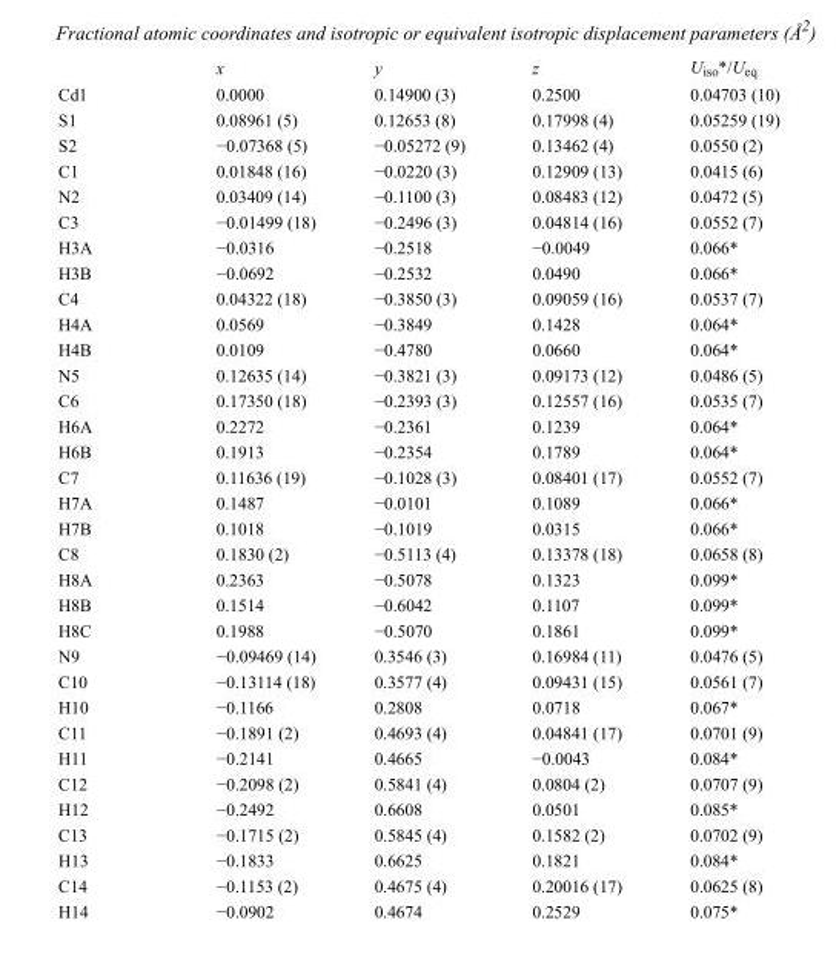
<table><thead><tr><td></td><td>x</td><td>y</td><td>z</td><td>U<sub>iso</sub>*/U<sub>eq</sub></td></tr></thead><tbody><tr><td>Cd1</td><td>0.0000</td><td>0.14900 (3)</td><td>0.2500</td><td>0.04703 (10)</td></tr><tr><td>S1</td><td>0.08961 (5)</td><td>0.12653 (8)</td><td>0.17998 (4)</td><td>0.05259 (19)</td></tr><tr><td>S2</td><td>−0.07368 (5)</td><td>−0.05272 (9)</td><td>0.13462 (4)</td><td>0.0550 (2)</td></tr><tr><td>C1</td><td>0.01848 (16)</td><td>−0.0220 (3)</td><td>0.12909 (13)</td><td>0.0415 (6)</td></tr><tr><td>N2</td><td>0.03409 (14)</td><td>−0.1100 (3)</td><td>0.08483 (12)</td><td>0.0472 (5)</td></tr><tr><td>C3</td><td>−0.01499 (18)</td><td>−0.2496 (3)</td><td>0.04814 (16)</td><td>0.0552 (7)</td></tr><tr><td>H3A</td><td>−0.0316</td><td>−0.2518</td><td>−0.0049</td><td>0.066*</td></tr><tr><td>H3B</td><td>−0.0692</td><td>−0.2532</td><td>0.0490</td><td>0.066*</td></tr><tr><td>C4</td><td>0.04322 (18)</td><td>−0.3850 (3)</td><td>0.09059 (16)</td><td>0.0537 (7)</td></tr><tr><td>H4A</td><td>0.0569</td><td>−0.3849</td><td>0.1428</td><td>0.064*</td></tr><tr><td>H4B</td><td>0.0109</td><td>−0.4780</td><td>0.0660</td><td>0.064*</td></tr><tr><td>N5</td><td>0.12635 (14)</td><td>−0.3821 (3)</td><td>0.09173 (12)</td><td>0.0486 (5)</td></tr><tr><td>C6</td><td>0.17350 (18)</td><td>−0.2393 (3)</td><td>0.12557 (16)</td><td>0.0535 (7)</td></tr><tr><td>H6A</td><td>0.2272</td><td>−0.2361</td><td>0.1239</td><td>0.064*</td></tr><tr><td>H6B</td><td>0.1913</td><td>−0.2354</td><td>0.1789</td><td>0.064*</td></tr><tr><td>C7</td><td>0.11636 (19)</td><td>−0.1028 (3)</td><td>0.08401 (17)</td><td>0.0552 (7)</td></tr><tr><td>H7A</td><td>0.1487</td><td>−0.0101</td><td>0.1089</td><td>0.066*</td></tr><tr><td>H7B</td><td>0.1018</td><td>−0.1019</td><td>0.0315</td><td>0.066*</td></tr><tr><td>C8</td><td>0.1830 (2)</td><td>−0.5113 (4)</td><td>0.13378 (18)</td><td>0.0658 (8)</td></tr><tr><td>H8A</td><td>0.2363</td><td>−0.5078</td><td>0.1323</td><td>0.099*</td></tr><tr><td>H8B</td><td>0.1514</td><td>−0.6042</td><td>0.1107</td><td>0.099*</td></tr><tr><td>H8C</td><td>0.1988</td><td>−0.5070</td><td>0.1861</td><td>0.099*</td></tr><tr><td>N9</td><td>−0.09469 (14)</td><td>0.3546 (3)</td><td>0.16984 (11)</td><td>0.0476 (5)</td></tr><tr><td>C10</td><td>−0.13114 (18)</td><td>0.3577 (4)</td><td>0.09431 (15)</td><td>0.0561 (7)</td></tr><tr><td>H10</td><td>−0.1166</td><td>0.2808</td><td>0.0718</td><td>0.067*</td></tr><tr><td>C11</td><td>−0.1891 (2)</td><td>0.4693 (4)</td><td>0.04841 (17)</td><td>0.0701 (9)</td></tr><tr><td>H11</td><td>−0.2141</td><td>0.4665</td><td>−0.0043</td><td>0.084*</td></tr><tr><td>C12</td><td>−0.2098 (2)</td><td>0.5841 (4)</td><td>0.0804 (2)</td><td>0.0707 (9)</td></tr><tr><td>H12</td><td>−0.2492</td><td>0.6608</td><td>0.0501</td><td>0.085*</td></tr><tr><td>C13</td><td>−0.1715 (2)</td><td>0.5845 (4)</td><td>0.1582 (2)</td><td>0.0702 (9)</td></tr><tr><td>H13</td><td>−0.1833</td><td>0.6625</td><td>0.1821</td><td>0.084*</td></tr><tr><td>C14</td><td>−0.1153 (2)</td><td>0.4675 (4)</td><td>0.20016 (17)</td><td>0.0625 (8)</td></tr><tr><td>H14</td><td>−0.0902</td><td>0.4674</td><td>0.2529</td><td>0.075*</td></tr></tbody></table>